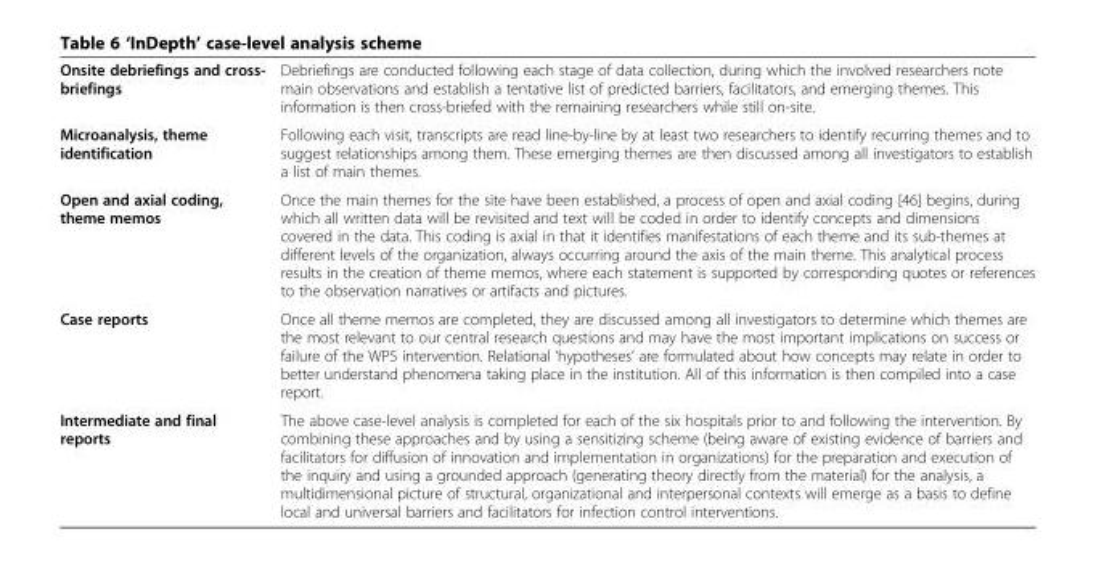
<table><tbody><tr><td>Onsite debriefings and cross- briefings</td><td>Debriefings are conducted following each stage of data collection, during which the involved researchers note main observations and establish a tentative list of predicted barriers, facilitators, and emerging themes. This information is then cross-briefed with the remaining researchers while still on-site.</td></tr><tr><td>Microanalysis, theme identification</td><td>Following each visit, transcripts are read line-by-line by at least two researchers to identify recurring themes and to suggest relationships among them. These emerging themes are then discussed among all investigators to establish a list of main themes.</td></tr><tr><td>Open and axial coding, theme memos</td><td>Once the main themes for the site have been established, a process of open and axial coding [46] begins, during which all written data will be revisited and text will be coded in order to identify concepts and dimensions covered in the data. This coding is axial in that it identifies manifestations of each theme and its sub-themes at different levels of the organization, always occurring around the axis of the main theme. This analytical process results in the creation of theme memos, where each statement is supported by corresponding quotes or references to the observation narratives or artifacts and pictures.</td></tr><tr><td>Case reports</td><td>Once all theme memos are completed, they are discussed among all investigators to determine which themes are the most relevant to our central research questions and may have the most important implications on success or failure of the WP5 intervention. Relational ‘hypotheses’ are formulated about how concepts may relate in order to better understand phenomena taking place in the institution. All of this information is then compiled into a case report.</td></tr><tr><td>Intermediate and final reports</td><td>The above case-level analysis is completed for each of the six hospitals prior to and following the intervention. By combining these approaches and by using a sensitizing scheme (being aware of existing evidence of barriers and facilitators for diffusion of innovation and implementation in organizations) for the preparation and execution of the inquiry and using a grounded approach (generating theory directly from the material) for the analysis, a multidimensional picture of structural, organizational and interpersonal contexts will emerge as a basis to define local and universal barriers and facilitators for infection control interventions.</td></tr></tbody></table>